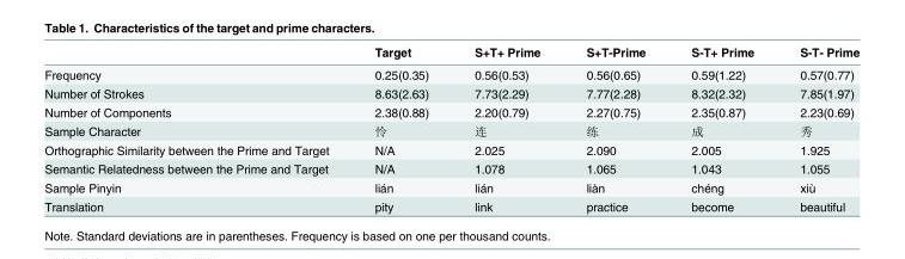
<table><thead><tr><td></td><td>Target</td><td>S+T+ Prime</td><td>S+T-Prime</td><td>S-T+ Prime</td><td>S-T- Prime</td></tr></thead><tbody><tr><td>Frequency</td><td>0.25(0.35)</td><td>0.56(0.53)</td><td>0.56(0.65)</td><td>0.59(1.22)</td><td>0.57(0.77)</td></tr><tr><td>Number of Strokes</td><td>8.63(2.63)</td><td>7.73(2.29)</td><td>7.77(2.28)</td><td>8.32(2.32)</td><td>7.85(1.97)</td></tr><tr><td>Number of Components</td><td>2.38(0.88)</td><td>2.20(0.79)</td><td>2.27(0.75)</td><td>2.35(0.87)</td><td>2.23(0.69)</td></tr><tr><td>Sample Character</td><td>怜</td><td>连</td><td>练</td><td>成</td><td>秀</td></tr><tr><td>Orthographic Similarity between the Prime and Target</td><td>N/A</td><td>2.025</td><td>2.090</td><td>2.005</td><td>1.925</td></tr><tr><td>Semantic Relatedness between the Prime and Target</td><td>N/A</td><td>1.078</td><td>1.065</td><td>1.043</td><td>1.055</td></tr><tr><td>Sample Pinyin</td><td>lián</td><td>lián</td><td>liàn</td><td>chéng</td><td>xiù</td></tr><tr><td>Translation</td><td>pity</td><td>link</td><td>practice</td><td>become</td><td>beautiful</td></tr></tbody></table>